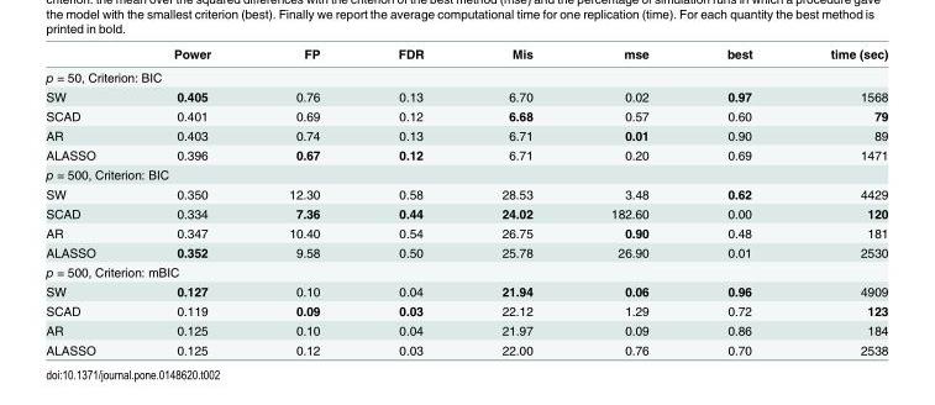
<table><thead><tr><td></td><td>Power</td><td>FP</td><td>FDR</td><td>Mis</td><td>mse</td><td>best</td><td>time (sec)</td></tr></thead><tbody><tr><td colspan="8">p = 50, Criterion: BIC</td></tr><tr><td>SW</td><td>0.405</td><td>0.76</td><td>0.13</td><td>6.70</td><td>0.02</td><td>0.97</td><td>1568</td></tr><tr><td>SCAD</td><td>0.401</td><td>0.69</td><td>0.12</td><td>6.68</td><td>0.57</td><td>0.60</td><td>79</td></tr><tr><td>AR</td><td>0.403</td><td>0.74</td><td>0.13</td><td>6.71</td><td>0.01</td><td>0.90</td><td>89</td></tr><tr><td>ALASSO</td><td>0.396</td><td>0.67</td><td>0.12</td><td>6.71</td><td>0.20</td><td>0.69</td><td>1471</td></tr><tr><td colspan="8">p = 500, Criterion: BIC</td></tr><tr><td>SW</td><td>0.350</td><td>12.30</td><td>0.58</td><td>28.53</td><td>3.48</td><td>0.62</td><td>4429</td></tr><tr><td>SCAD</td><td>0.334</td><td>7.36</td><td>0.44</td><td>24.02</td><td>182.60</td><td>0.00</td><td>120</td></tr><tr><td>AR</td><td>0.347</td><td>10.40</td><td>0.54</td><td>26.75</td><td>0.90</td><td>0.48</td><td>181</td></tr><tr><td>ALASSO</td><td>0.352</td><td>9.58</td><td>0.50</td><td>25.78</td><td>26.90</td><td>0.01</td><td>2530</td></tr><tr><td colspan="8">p = 500, Criterion: mBIC</td></tr><tr><td>SW</td><td>0.127</td><td>0.10</td><td>0.04</td><td>21.94</td><td>0.06</td><td>0.96</td><td>4909</td></tr><tr><td>SCAD</td><td>0.119</td><td>0.09</td><td>0.03</td><td>22.12</td><td>1.29</td><td>0.72</td><td>123</td></tr><tr><td>AR</td><td>0.125</td><td>0.10</td><td>0.04</td><td>21.97</td><td>0.09</td><td>0.86</td><td>184</td></tr><tr><td>ALASSO</td><td>0.125</td><td>0.12</td><td>0.03</td><td>22.00</td><td>0.76</td><td>0.70</td><td>2538</td></tr></tbody></table>